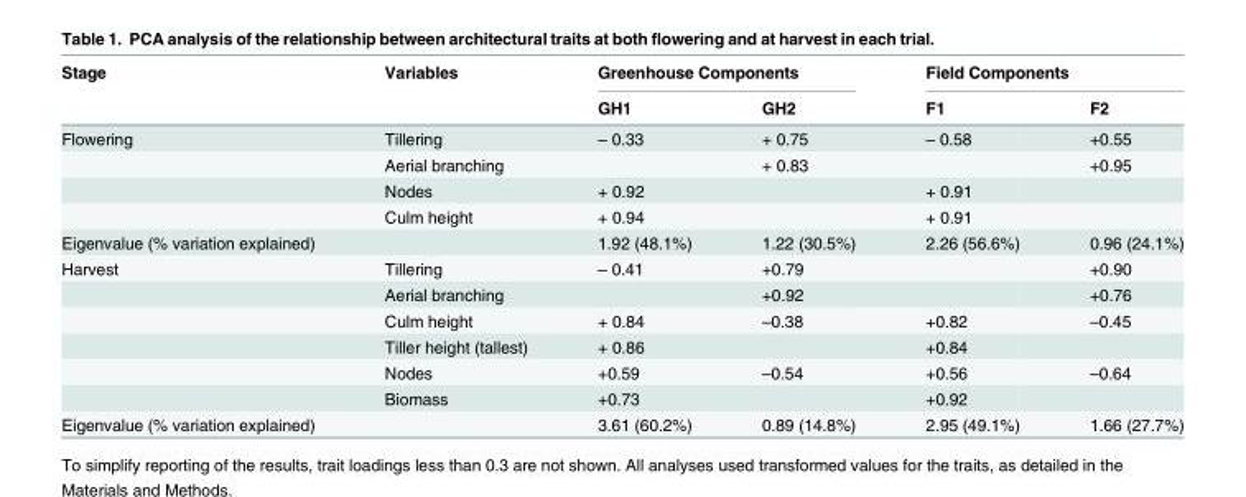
<table><thead><tr><td rowspan="2">Stage</td><td rowspan="2">Variables</td><td colspan="2">Greenhouse Components</td><td colspan="2">Field Components</td></tr><tr><td>GH1</td><td>GH2</td><td>F1</td><td>F2</td></tr></thead><tbody><tr><td rowspan="4">Flowering</td><td>Tillering</td><td>– 0.33</td><td>+ 0.75</td><td>– 0.58</td><td>+0.55</td></tr><tr><td>Aerial branching</td><td></td><td>+ 0.83</td><td></td><td>+0.95</td></tr><tr><td>Nodes</td><td>+ 0.92</td><td></td><td>+ 0.91</td><td></td></tr><tr><td>Culm height</td><td>+ 0.94</td><td></td><td>+ 0.91</td><td></td></tr><tr><td>Eigenvalue (% variation explained)</td><td></td><td>1.92 (48.1%)</td><td>1.22 (30.5%)</td><td>2.26 (56.6%)</td><td>0.96 (24.1%)</td></tr><tr><td rowspan="6">Harvest</td><td>Tillering</td><td>– 0.41</td><td>+0.79</td><td></td><td>+0.90</td></tr><tr><td>Aerial branching</td><td></td><td>+0.92</td><td></td><td>+0.76</td></tr><tr><td>Culm height</td><td>+ 0.84</td><td>–0.38</td><td>+0.82</td><td>–0.45</td></tr><tr><td>Tiller height (tallest)</td><td>+ 0.86</td><td></td><td>+0.84</td><td></td></tr><tr><td>Nodes</td><td>+0.59</td><td>–0.54</td><td>+0.56</td><td>–0.64</td></tr><tr><td>Biomass</td><td>+0.73</td><td></td><td>+0.92</td><td></td></tr><tr><td>Eigenvalue (% variation explained)</td><td></td><td>3.61 (60.2%)</td><td>0.89 (14.8%)</td><td>2.95 (49.1%)</td><td>1.66 (27.7%)</td></tr></tbody></table>